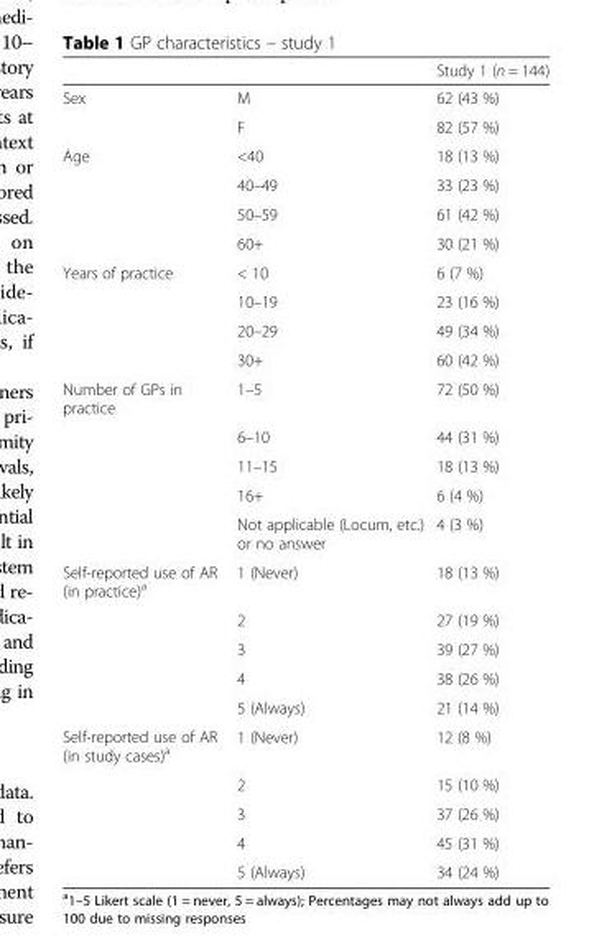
<table><thead><tr><td></td><td></td><td>Study 1 (n = 144)</td></tr></thead><tbody><tr><td rowspan="2">Sex</td><td>M</td><td>62 (43 %)</td></tr><tr><td>F</td><td>82 (57 %)</td></tr><tr><td rowspan="4">Age</td><td>&lt;40</td><td>18 (13 %)</td></tr><tr><td>40–49</td><td>33 (23 %)</td></tr><tr><td>50–59</td><td>61 (42 %)</td></tr><tr><td>60+</td><td>30 (21 %)</td></tr><tr><td rowspan="4">Years of practice</td><td>&lt; 10</td><td>6 (7 %)</td></tr><tr><td>10–19</td><td>23 (16 %)</td></tr><tr><td>20–29</td><td>49 (34 %)</td></tr><tr><td>30+</td><td>60 (42 %)</td></tr><tr><td rowspan="5">Number of GPs in practice</td><td>1–5</td><td>72 (50 %)</td></tr><tr><td>6–10</td><td>44 (31 %)</td></tr><tr><td>11–15</td><td>18 (13 %)</td></tr><tr><td>16+</td><td>6 (4 %)</td></tr><tr><td>Not applicable (Locum, etc.) or no answer</td><td>4 (3 %)</td></tr><tr><td rowspan="5">Self-reported use of AR (in practice)<sup>a</sup></td><td>1 (Never)</td><td>18 (13 %)</td></tr><tr><td>2</td><td>27 (19 %)</td></tr><tr><td>3</td><td>39 (27 %)</td></tr><tr><td>4</td><td>38 (26 %)</td></tr><tr><td>5 (Always)</td><td>21 (14 %)</td></tr><tr><td rowspan="5">Self-reported use of AR (in study cases)<sup>a</sup></td><td>1 (Never)</td><td>12 (8 %)</td></tr><tr><td>2</td><td>15 (10 %)</td></tr><tr><td>3</td><td>37 (26 %)</td></tr><tr><td>4</td><td>45 (31 %)</td></tr><tr><td>5 (Always)</td><td>34 (24 %)</td></tr></tbody></table>